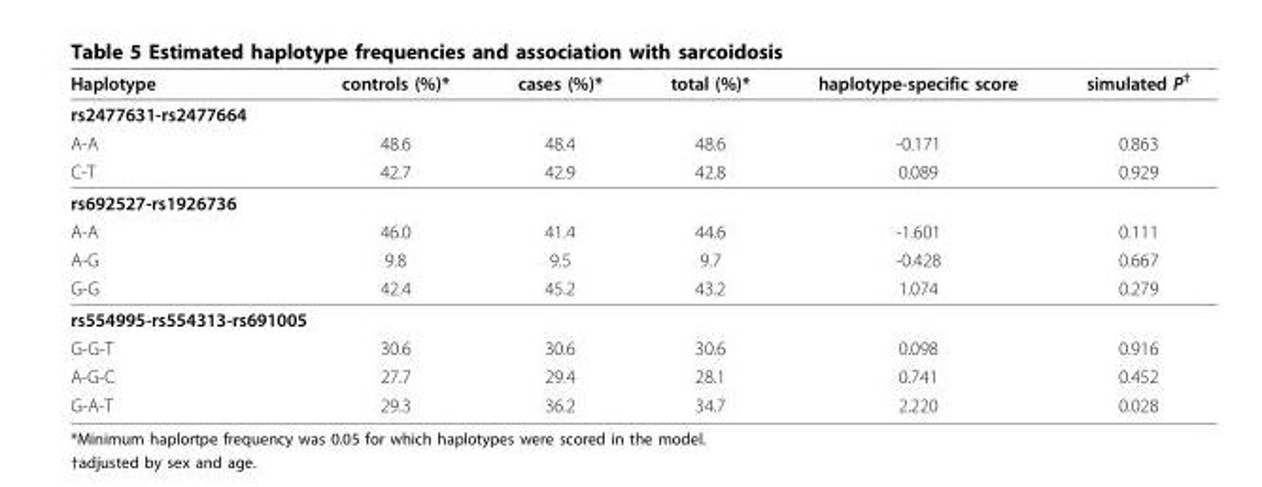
<table><thead><tr><td>Haplotype</td><td>controls (%)*</td><td>cases (%)*</td><td>total (%)*</td><td>haplotype-specific score</td><td>simulated P<sup>†</sup></td></tr></thead><tbody><tr><td colspan="6">rs2477631-rs2477664</td></tr><tr><td>A-A</td><td>48.6</td><td>48.4</td><td>48.6</td><td>-0.171</td><td>0.863</td></tr><tr><td>C-T</td><td>42.7</td><td>42.9</td><td>42.8</td><td>0.089</td><td>0.929</td></tr><tr><td colspan="6">rs692527-rs1926736</td></tr><tr><td>A-A</td><td>46.0</td><td>41.4</td><td>44.6</td><td>-1.601</td><td>0.111</td></tr><tr><td>A-G</td><td>9.8</td><td>9.5</td><td>9.7</td><td>-0.428</td><td>0.667</td></tr><tr><td>G-G</td><td>42.4</td><td>45.2</td><td>43.2</td><td>1.074</td><td>0.279</td></tr><tr><td colspan="6">rs554995-rs554313-rs691005</td></tr><tr><td>G-G-T</td><td>30.6</td><td>30.6</td><td>30.6</td><td>0.098</td><td>0.916</td></tr><tr><td>A-G-C</td><td>27.7</td><td>29.4</td><td>28.1</td><td>0.741</td><td>0.452</td></tr><tr><td>G-A-T</td><td>29.3</td><td>36.2</td><td>34.7</td><td>2.220</td><td>0.028</td></tr></tbody></table>